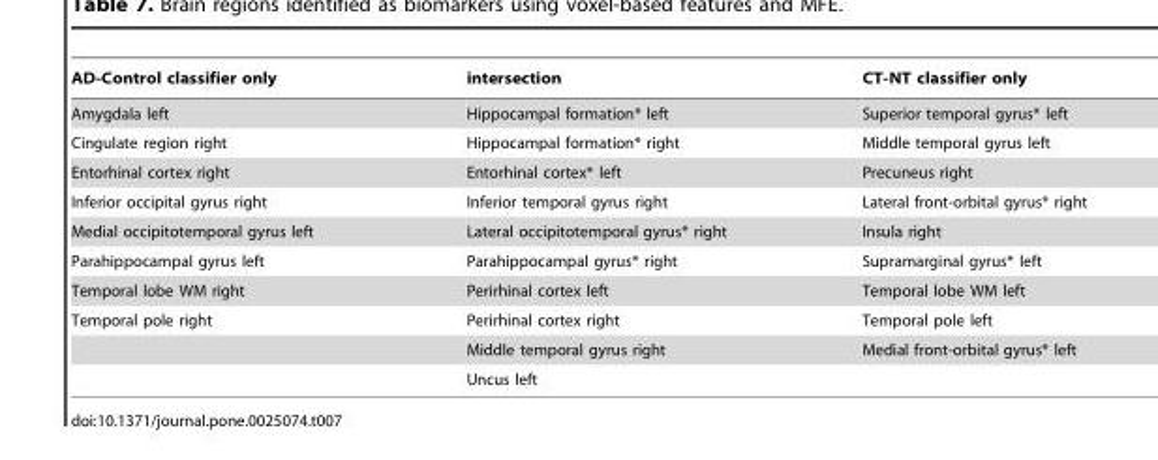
<table><thead><tr><td>AD-Control classifier only</td><td>intersection</td><td>CT-NT classifier only</td></tr></thead><tbody><tr><td>Amygdala left</td><td>Hippocampal formation* left</td><td>Superior temporal gyrus* left</td></tr><tr><td>Cingulate region right</td><td>Hippocampal formation* right</td><td>Middle temporal gyrus left</td></tr><tr><td>Entorhinal cortex right</td><td>Entorhinal cortex* left</td><td>Precuneus right</td></tr><tr><td>Inferior occipital gyrus right</td><td>Inferior temporal gyrus right</td><td>Lateral front-orbital gyrus* right</td></tr><tr><td>Medial occipitotemporal gyrus left</td><td>Lateral occipitotemporal gyrus* right</td><td>Insula right</td></tr><tr><td>Parahippocampal gyrus left</td><td>Parahippocampal gyrus* right</td><td>Supramarginal gyrus* left</td></tr><tr><td>Temporal lobe WM right</td><td>Perirhinal cortex left</td><td>Temporal lobe WM left</td></tr><tr><td rowspan="3">Temporal pole right</td><td>Perirhinal cortex right</td><td>Temporal pole left</td></tr><tr><td>Middle temporal gyrus right</td><td>Medial front-orbital gyrus* left</td></tr><tr><td>Uncus left</td><td></td></tr></tbody></table>